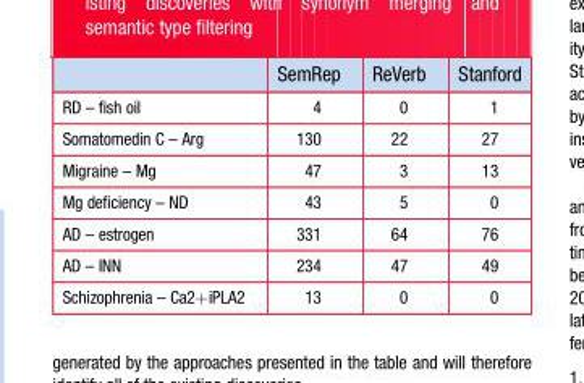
<table><thead><tr><td></td><td>SemRep</td><td>ReVerb</td><td>Stanford</td></tr></thead><tbody><tr><td>RD – fish oil</td><td>4</td><td>0</td><td>1</td></tr><tr><td>Somatomedin C – Arg</td><td>130</td><td>22</td><td>27</td></tr><tr><td>Migraine – Mg</td><td>47</td><td>3</td><td>13</td></tr><tr><td>Mg deficiency – ND</td><td>43</td><td>5</td><td>0</td></tr><tr><td>AD – estrogen</td><td>331</td><td>64</td><td>76</td></tr><tr><td>AD – INN</td><td>234</td><td>47</td><td>49</td></tr><tr><td>Schizophrenia – Ca2+iPLA2</td><td>13</td><td>0</td><td>0</td></tr></tbody></table>